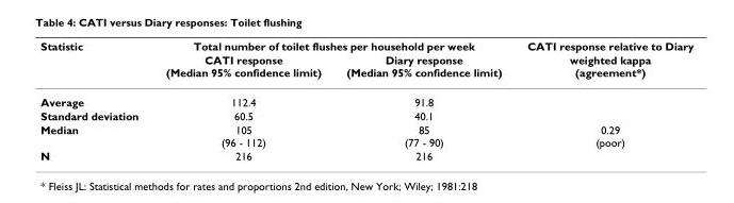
<table><thead><tr><td rowspan="2">Statistic</td><td colspan="2">Total number of toilet flushes per household per week</td><td rowspan="2">CATI response relative to Diary weighted kappa (agreement*)</td></tr><tr><td>CATI response (Median 95% confidence limit)</td><td>Diary response (Median 95% confidence limit)</td></tr></thead><tbody><tr><td>Average</td><td>112.4</td><td>91.8</td><td></td></tr><tr><td>Standard deviation</td><td>60.5</td><td>40.1</td><td></td></tr><tr><td>Median</td><td>105 (96 - 112)</td><td>85 (77 - 90)</td><td>0.29 (poor)</td></tr><tr><td>N</td><td>216</td><td>216</td><td></td></tr></tbody></table>